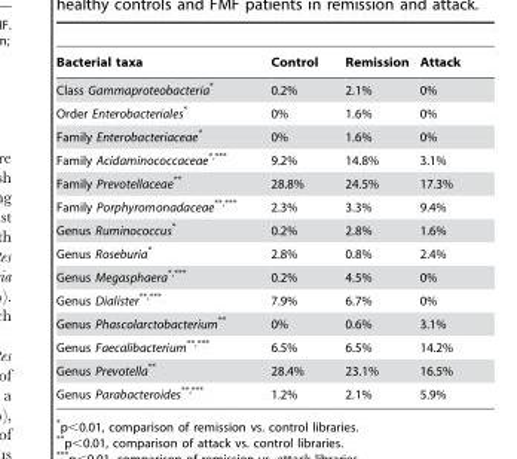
<table><thead><tr><td>Bacterial taxa</td><td>Control</td><td>Remission</td><td>Attack</td></tr></thead><tbody><tr><td>Class Gammaproteobacteria*</td><td>0.2%</td><td>2.1%</td><td>0%</td></tr><tr><td>Order Enterobacteriales*</td><td>0%</td><td>1.6%</td><td>0%</td></tr><tr><td>Family Enterobacteriaceae*</td><td>0%</td><td>1.6%</td><td>0%</td></tr><tr><td>Family Acidaminococcaceae*<sup>,</sup>***</td><td>9.2%</td><td>14.8%</td><td>3.1%</td></tr><tr><td>Family Prevotellaceae**</td><td>28.8%</td><td>24.5%</td><td>17.3%</td></tr><tr><td>Family Porphyromonadaceae**<sup>,</sup>***</td><td>2.3%</td><td>3.3%</td><td>9.4%</td></tr><tr><td>Genus Ruminococcus*</td><td>0.2%</td><td>2.8%</td><td>1.6%</td></tr><tr><td>Genus Roseburia*</td><td>2.8%</td><td>0.8%</td><td>2.4%</td></tr><tr><td>Genus Megasphaera*<sup>,</sup>***</td><td>0.2%</td><td>4.5%</td><td>0%</td></tr><tr><td>Genus Dialister**<sup>,</sup>***</td><td>7.9%</td><td>6.7%</td><td>0%</td></tr><tr><td>Genus Phascolarctobacterium**</td><td>0%</td><td>0.6%</td><td>3.1%</td></tr><tr><td>Genus Faecalibacterium**<sup>,</sup>***</td><td>6.5%</td><td>6.5%</td><td>14.2%</td></tr><tr><td>Genus Prevotella**</td><td>28.4%</td><td>23.1%</td><td>16.5%</td></tr><tr><td>Genus Parabacteroides**<sup>,</sup>***</td><td>1.2%</td><td>2.1%</td><td>5.9%</td></tr></tbody></table>